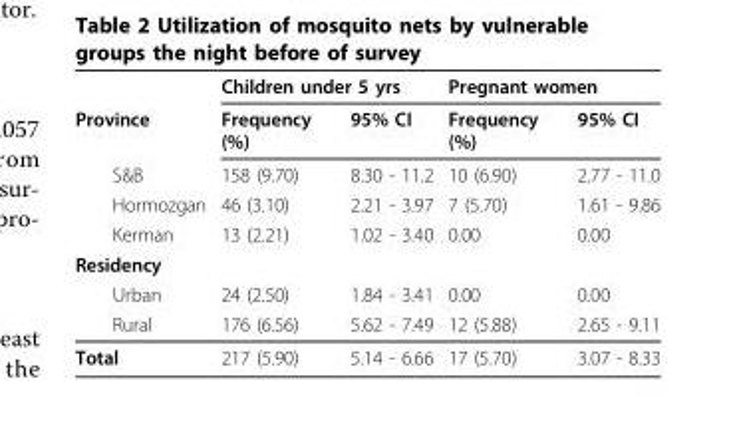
<table><thead><tr><td rowspan="8">Province S&amp;B Hormozgan Kerman Residency Urban Rural</td><td colspan="2">Children under 5 yrs</td><td colspan="2">Pregnant women</td></tr><tr><td rowspan="7">Frequency (%) 158 (9.70) 46 (3.10) 13 (2.21) 24 (2.50) 176 (6.56)</td><td rowspan="7">95% CI 8.30 - 11.2 2.21 - 3.97 1.02 - 3.40 1.84 - 3.41 5.62 - 7.49</td><td rowspan="7">Frequency (%) 10 (6.90) 7 (5.70) 0.00 0.00 12 (5.88)</td><td rowspan="7">95% CI 2.77 - 11.0 1.61 - 9.86 0.00 0.00 2.65 - 9.11</td></tr><tr></tr><tr></tr><tr></tr><tr></tr><tr></tr><tr></tr></thead><tbody><tr><td>Total</td><td>217 (5.90)</td><td>5.14 - 6.66</td><td>17 (5.70)</td><td>3.07 - 8.33</td></tr></tbody></table>